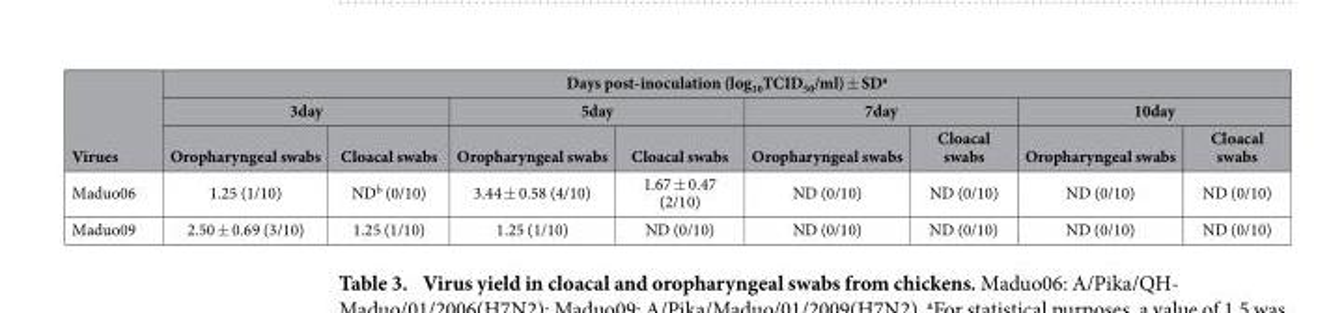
<table><thead><tr><td rowspan="3">Virues</td><td colspan="8">Days post-inoculation (log<sub>10</sub>TCID<sub>50</sub>/ml) ± SD<sup>a</sup></td></tr><tr><td colspan="2">3day</td><td colspan="2">5day</td><td colspan="2">7day</td><td colspan="2">10day</td></tr><tr><td>Oropharyngeal swabs</td><td>Cloacal swabs</td><td>Oropharyngeal swabs</td><td>Cloacal swabs</td><td>Oropharyngeal swabs</td><td>Cloacal swabs</td><td>Oropharyngeal swabs</td><td>Cloacal swabs</td></tr></thead><tbody><tr><td>Maduo06</td><td>1.25 (1/10)</td><td>ND<sup>b</sup> (0/10)</td><td>3.44 ± 0.58 (4/10)</td><td>1.67 ± 0.47 (2/10)</td><td>ND (0/10)</td><td>ND (0/10)</td><td>ND (0/10)</td><td>ND (0/10)</td></tr><tr><td>Maduo09</td><td>2.50 ± 0.69 (3/10)</td><td>1.25 (1/10)</td><td>1.25 (1/10)</td><td>ND (0/10)</td><td>ND (0/10)</td><td>ND (0/10)</td><td>ND (0/10)</td><td>ND (0/10)</td></tr></tbody></table>